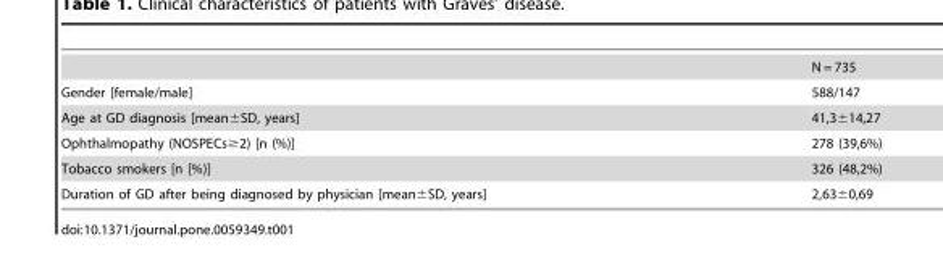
<table><thead><tr><td></td><td>N = 735</td></tr></thead><tbody><tr><td>Gender [female/male]</td><td>588/147</td></tr><tr><td>Age at GD diagnosis [mean±SD, years]</td><td>41,3±14,27</td></tr><tr><td>Ophthalmopathy (NOSPECs≥2) [n (%)]</td><td>278 (39,6%)</td></tr><tr><td>Tobacco smokers [n [%)]</td><td>326 (48,2%)</td></tr><tr><td>Duration of GD after being diagnosed by physician [mean±SD, years]</td><td>2,63±0,69</td></tr></tbody></table>